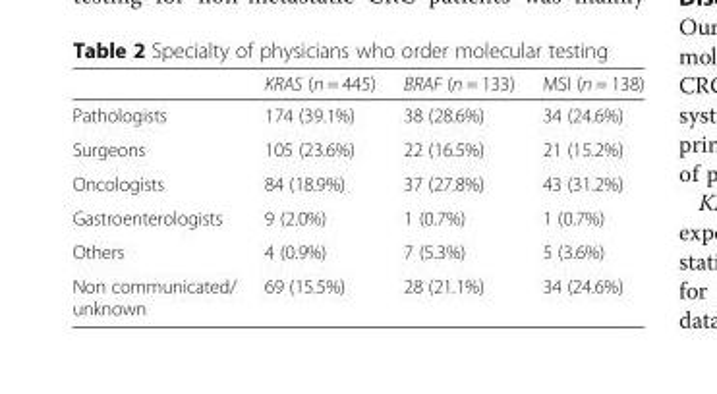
<table><thead><tr><td></td><td>KRAS (n = 445)</td><td>BRAF (n = 133)</td><td>MSI (n = 138)</td></tr></thead><tbody><tr><td>Pathologists</td><td>174 (39.1%)</td><td>38 (28.6%)</td><td>34 (24.6%)</td></tr><tr><td>Surgeons</td><td>105 (23.6%)</td><td>22 (16.5%)</td><td>21 (15.2%)</td></tr><tr><td>Oncologists</td><td>84 (18.9%)</td><td>37 (27.8%)</td><td>43 (31.2%)</td></tr><tr><td>Gastroenterologists</td><td>9 (2.0%)</td><td>1 (0.7%)</td><td>1 (0.7%)</td></tr><tr><td>Others</td><td>4 (0.9%)</td><td>7 (5.3%)</td><td>5 (3.6%)</td></tr><tr><td>Non communicated/ unknown</td><td>69 (15.5%)</td><td>28 (21.1%)</td><td>34 (24.6%)</td></tr></tbody></table>